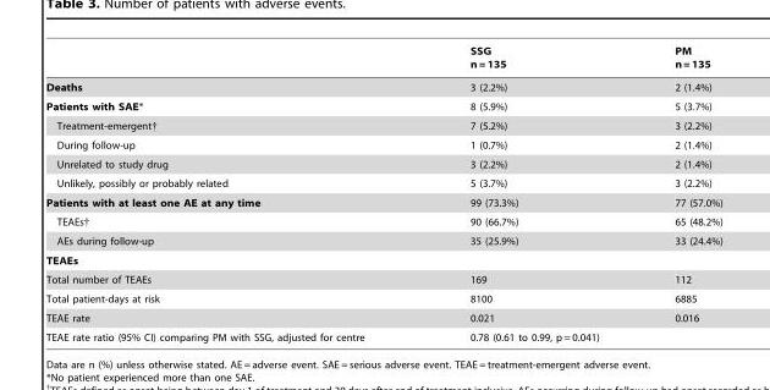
<table><thead><tr><td></td><td>SSG n = 135</td><td>PM n = 135</td></tr></thead><tbody><tr><td>Deaths</td><td>3 (2.2%)</td><td>2 (1.4%)</td></tr><tr><td>Patients with SAE*</td><td>8 (5.9%)</td><td>5 (3.7%)</td></tr><tr><td>Treatment-emergent†</td><td>7 (5.2%)</td><td>3 (2.2%)</td></tr><tr><td>During follow-up</td><td>1 (0.7%)</td><td>2 (1.4%)</td></tr><tr><td>Unrelated to study drug</td><td>3 (2.2%)</td><td>2 (1.4%)</td></tr><tr><td>Unlikely, possibly or probably related</td><td>5 (3.7%)</td><td>3 (2.2%)</td></tr><tr><td>Patients with at least one AE at any time</td><td>99 (73.3%)</td><td>77 (57.0%)</td></tr><tr><td>TEAEs†</td><td>90 (66.7%)</td><td>65 (48.2%)</td></tr><tr><td>AEs during follow-up</td><td>35 (25.9%)</td><td>33 (24.4%)</td></tr><tr><td colspan="3">TEAEs</td></tr><tr><td>Total number of TEAEs</td><td>169</td><td>112</td></tr><tr><td>Total patient-days at risk</td><td>8100</td><td>6885</td></tr><tr><td>TEAE rate</td><td>0.021</td><td>0.016</td></tr><tr><td>TEAE rate ratio (95% CI) comparing PM with SSG, adjusted for centre</td><td colspan="2">0.78 (0.61 to 0.99, p = 0.041)</td></tr></tbody></table>